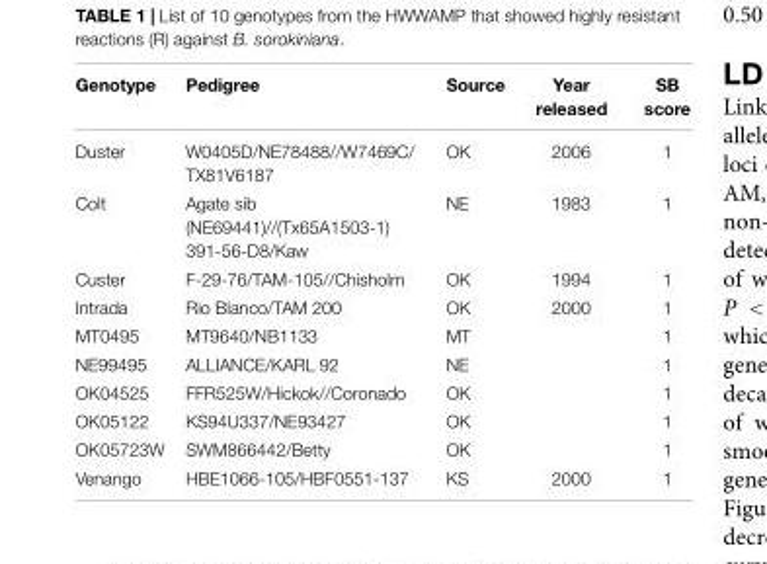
<table><thead><tr><td>Genotype</td><td>Pedigree</td><td>Source</td><td>Year released</td><td>SB score</td></tr></thead><tbody><tr><td>Duster</td><td>W0405D/NE78488//W7469C/ TX81V6187</td><td>OK</td><td>2006</td><td>1</td></tr><tr><td>Colt</td><td>Agate sib (NE69441)//(Tx65A1503-1) 391-56-D8/Kaw</td><td>NE</td><td>1983</td><td>1</td></tr><tr><td>Custer</td><td>F-29-76/TAM-105//Chisholm</td><td>OK</td><td>1994</td><td>1</td></tr><tr><td>Intrada</td><td>Rio Blanco/TAM 200</td><td>OK</td><td>2000</td><td>1</td></tr><tr><td>MT0495</td><td>MT9640/NB1133</td><td>MT</td><td></td><td>1</td></tr><tr><td>NE99495</td><td>ALLIANCE/KARL 92</td><td>NE</td><td></td><td>1</td></tr><tr><td>OK04525</td><td>FFR525W/Hickok//Coronado</td><td>OK</td><td></td><td>1</td></tr><tr><td>OK05122</td><td>KS94U337/NE93427</td><td>OK</td><td></td><td>1</td></tr><tr><td>OK05723W</td><td>SWM866442/Betty</td><td>OK</td><td></td><td>1</td></tr><tr><td>Venango</td><td>HBE1066-105/HBF0551-137</td><td>KS</td><td>2000</td><td>1</td></tr></tbody></table>